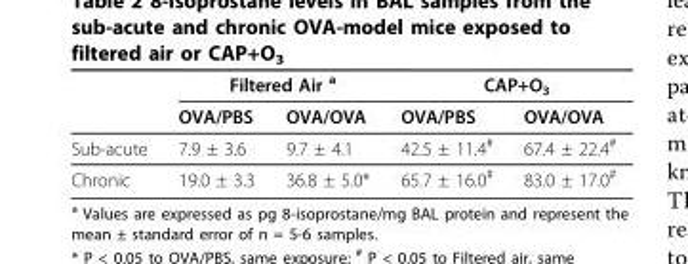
<table><thead><tr><td rowspan="2"></td><td colspan="2">Filtered Air <sup>a</sup></td><td colspan="2">CAP+O<sub>3</sub></td></tr><tr><td>OVA/PBS</td><td>OVA/OVA</td><td>OVA/PBS</td><td>OVA/OVA</td></tr></thead><tbody><tr><td>Sub-acute</td><td>7.9 ± 3.6</td><td>9.7 ± 4.1</td><td>42.5 ± 11.4<sup>#</sup></td><td>67.4 ± 22.4<sup>#</sup></td></tr><tr><td>Chronic</td><td>19.0 ± 3.3</td><td>36.8 ± 5.0*</td><td>65.7 ± 16.0<sup>#</sup></td><td>83.0 ± 17.0<sup>#</sup></td></tr></tbody></table>